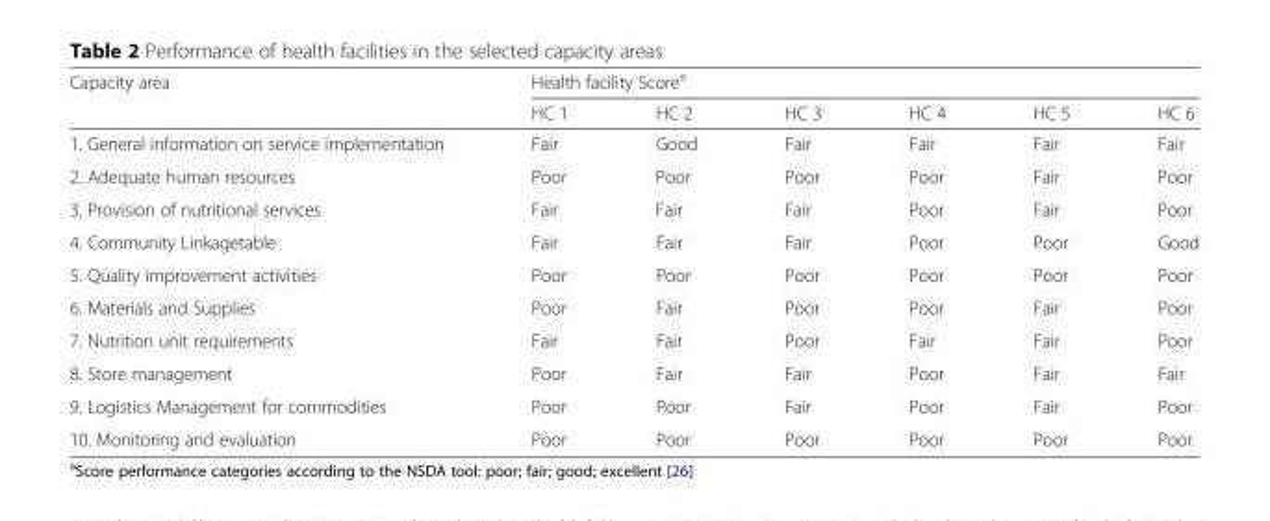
<table><thead><tr><td rowspan="2">Capacity area</td><td colspan="6">Health facility Score<sup>a</sup></td></tr><tr><td>HC 1</td><td>HC 2</td><td>HC 3</td><td>HC 4</td><td>HC 5</td><td>HC 6</td></tr></thead><tbody><tr><td>1. General information on service implementation</td><td>Fair</td><td>Good</td><td>Fair</td><td>Fair</td><td>Fair</td><td>Fair</td></tr><tr><td>2. Adequate human resources</td><td>Poor</td><td>Poor</td><td>Poor</td><td>Poor</td><td>Fair</td><td>Poor</td></tr><tr><td>3. Provision of nutritional services</td><td>Fair</td><td>Fair</td><td>Fair</td><td>Poor</td><td>Fair</td><td>Poor</td></tr><tr><td>4. Community Linkagetable</td><td>Fair</td><td>Fair</td><td>Fair</td><td>Poor</td><td>Poor</td><td>Good</td></tr><tr><td>5. Quality improvement activities</td><td>Poor</td><td>Poor</td><td>Poor</td><td>Poor</td><td>Poor</td><td>Poor</td></tr><tr><td>6. Materials and Supplies</td><td>Poor</td><td>Fair</td><td>Poor</td><td>Poor</td><td>Fair</td><td>Poor</td></tr><tr><td>7. Nutrition unit requirements</td><td>Fair</td><td>Fair</td><td>Poor</td><td>Fair</td><td>Fair</td><td>Poor</td></tr><tr><td>8. Store management</td><td>Poor</td><td>Fair</td><td>Fair</td><td>Poor</td><td>Fair</td><td>Fair</td></tr><tr><td>9. Logistics Management for commodities</td><td>Poor</td><td>Poor</td><td>Fair</td><td>Poor</td><td>Fair</td><td>Poor</td></tr><tr><td>10. Monitoring and evaluation</td><td>Poor</td><td>Poor</td><td>Poor</td><td>Poor</td><td>Poor</td><td>Poor</td></tr></tbody></table>